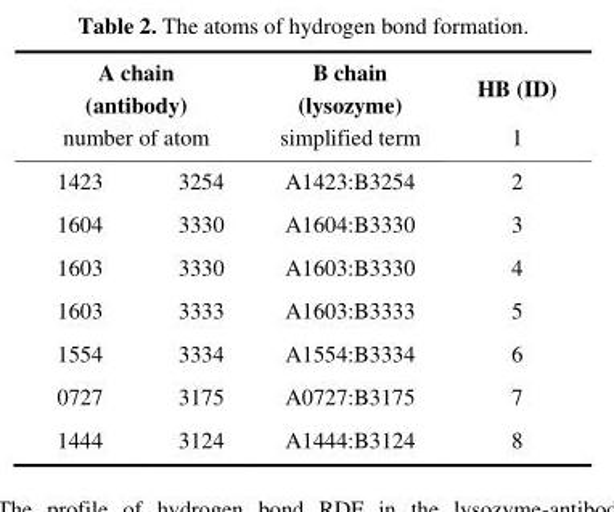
<table><thead><tr><td rowspan="2" colspan="2">A chain (antibody) number of atom</td><td rowspan="3">B chain (lysozyme) simplified term A1423:B3254</td><td rowspan="3">HB (ID) 1 2</td></tr><tr></tr><tr><td>1423</td><td>3254</td></tr></thead><tbody><tr><td>1604</td><td>3330</td><td>A1604:B3330</td><td>3</td></tr><tr><td>1603</td><td>3330</td><td>A1603:B3330</td><td>4</td></tr><tr><td>1603</td><td>3333</td><td>A1603:B3333</td><td>5</td></tr><tr><td>1554</td><td>3334</td><td>A1554:B3334</td><td>6</td></tr><tr><td>0727</td><td>3175</td><td>A0727:B3175</td><td>7</td></tr><tr><td>1444</td><td>3124</td><td>A1444:B3124</td><td>8</td></tr></tbody></table>